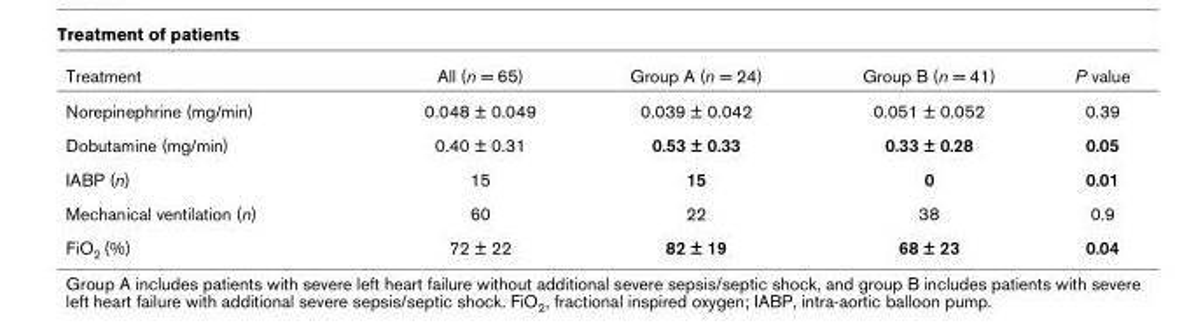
<table><thead><tr><td>Treatment</td><td>All (n = 65)</td><td>Group A (n = 24)</td><td>Group B (n = 41)</td><td>P value</td></tr></thead><tbody><tr><td>Norepinephrine (mg/min)</td><td>0.048 ± 0.049</td><td>0.039 ± 0.042</td><td>0.051 ± 0.052</td><td>0.39</td></tr><tr><td>Dobutamine (mg/min)</td><td>0.40 ± 0.31</td><td>0.53 ± 0.33</td><td>0.33 ± 0.28</td><td>0.05</td></tr><tr><td>IABP (n)</td><td>15</td><td>15</td><td>0</td><td>0.01</td></tr><tr><td>Mechanical ventilation (n)</td><td>60</td><td>22</td><td>38</td><td>0.9</td></tr><tr><td>FiO<sub>2</sub> (%)</td><td>72 ± 22</td><td>82 ± 19</td><td>68 ± 23</td><td>0.04</td></tr></tbody></table>